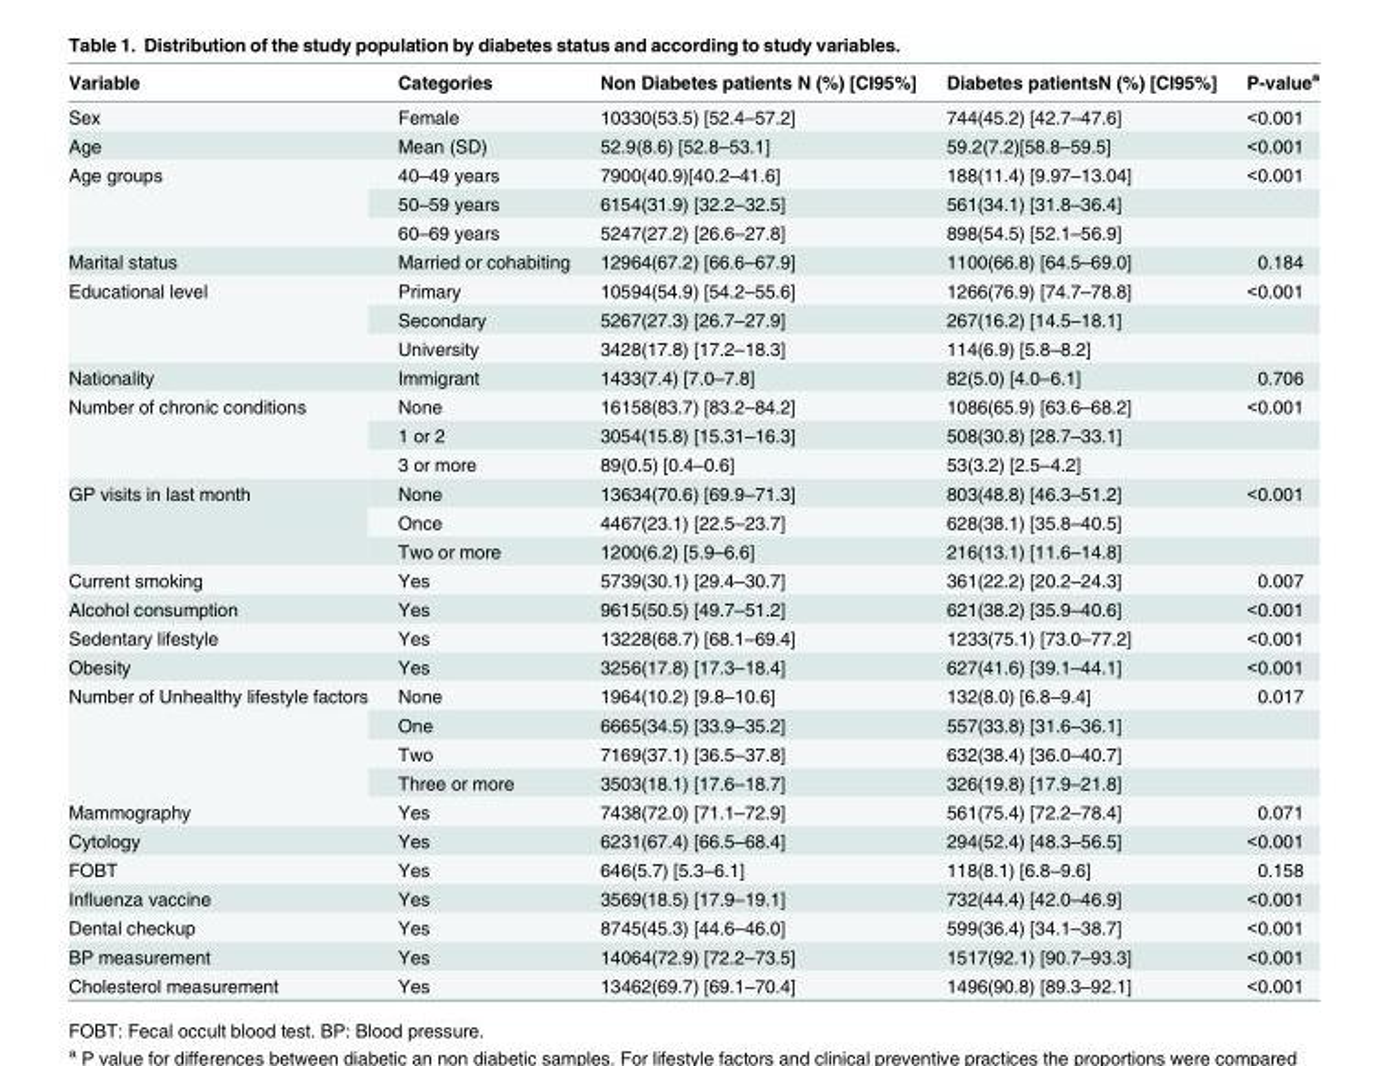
<table><thead><tr><td>Variable</td><td>Categories</td><td>Non Diabetes patients N (%) [CI95%]</td><td>Diabetes patientsN (%) [CI95%]</td><td>P-value<sup>a</sup></td></tr></thead><tbody><tr><td>Sex</td><td>Female</td><td>10330(53.5) [52.4–57.2]</td><td>744(45.2) [42.7–47.6]</td><td>&lt;0.001</td></tr><tr><td>Age</td><td>Mean (SD)</td><td>52.9(8.6) [52.8–53.1]</td><td>59.2(7.2)[58.8–59.5]</td><td>&lt;0.001</td></tr><tr><td rowspan="3">Age groups</td><td>40–49 years</td><td>7900(40.9)[40.2–41.6]</td><td>188(11.4) [9.97–13.04]</td><td>&lt;0.001</td></tr><tr><td>50–59 years</td><td>6154(31.9) [32.2–32.5]</td><td>561(34.1) [31.8–36.4]</td><td></td></tr><tr><td>60–69 years</td><td>5247(27.2) [26.6–27.8]</td><td>898(54.5) [52.1–56.9]</td><td></td></tr><tr><td>Marital status</td><td>Married or cohabiting</td><td>12964(67.2) [66.6–67.9]</td><td>1100(66.8) [64.5–69.0]</td><td>0.184</td></tr><tr><td rowspan="3">Educational level</td><td>Primary</td><td>10594(54.9) [54.2–55.6]</td><td>1266(76.9) [74.7–78.8]</td><td>&lt;0.001</td></tr><tr><td>Secondary</td><td>5267(27.3) [26.7–27.9]</td><td>267(16.2) [14.5–18.1]</td><td></td></tr><tr><td>University</td><td>3428(17.8) [17.2–18.3]</td><td>114(6.9) [5.8–8.2]</td><td></td></tr><tr><td>Nationality</td><td>Immigrant</td><td>1433(7.4) [7.0–7.8]</td><td>82(5.0) [4.0–6.1]</td><td>0.706</td></tr><tr><td rowspan="3">Number of chronic conditions</td><td>None</td><td>16158(83.7) [83.2–84.2]</td><td>1086(65.9) [63.6–68.2]</td><td>&lt;0.001</td></tr><tr><td>1 or 2</td><td>3054(15.8) [15.31–16.3]</td><td>508(30.8) [28.7–33.1]</td><td></td></tr><tr><td>3 or more</td><td>89(0.5) [0.4–0.6]</td><td>53(3.2) [2.5–4.2]</td><td></td></tr><tr><td rowspan="3">GP visits in last month</td><td>None</td><td>13634(70.6) [69.9–71.3]</td><td>803(48.8) [46.3–51.2]</td><td>&lt;0.001</td></tr><tr><td>Once</td><td>4467(23.1) [22.5–23.7]</td><td>628(38.1) [35.8–40.5]</td><td></td></tr><tr><td>Two or more</td><td>1200(6.2) [5.9–6.6]</td><td>216(13.1) [11.6–14.8]</td><td></td></tr><tr><td>Current smoking</td><td>Yes</td><td>5739(30.1) [29.4–30.7]</td><td>361(22.2) [20.2–24.3]</td><td>0.007</td></tr><tr><td>Alcohol consumption</td><td>Yes</td><td>9615(50.5) [49.7–51.2]</td><td>621(38.2) [35.9–40.6]</td><td>&lt;0.001</td></tr><tr><td>Sedentary lifestyle</td><td>Yes</td><td>13228(68.7) [68.1–69.4]</td><td>1233(75.1) [73.0–77.2]</td><td>&lt;0.001</td></tr><tr><td>Obesity</td><td>Yes</td><td>3256(17.8) [17.3–18.4]</td><td>627(41.6) [39.1–44.1]</td><td>&lt;0.001</td></tr><tr><td rowspan="4">Number of Unhealthy lifestyle factors</td><td>None</td><td>1964(10.2) [9.8–10.6]</td><td>132(8.0) [6.8–9.4]</td><td>0.017</td></tr><tr><td>One</td><td>6665(34.5) [33.9–35.2]</td><td>557(33.8) [31.6–36.1]</td><td></td></tr><tr><td>Two</td><td>7169(37.1) [36.5–37.8]</td><td>632(38.4) [36.0–40.7]</td><td></td></tr><tr><td>Three or more</td><td>3503(18.1) [17.6–18.7]</td><td>326(19.8) [17.9–21.8]</td><td></td></tr><tr><td>Mammography</td><td>Yes</td><td>7438(72.0) [71.1–72.9]</td><td>561(75.4) [72.2–78.4]</td><td>0.071</td></tr><tr><td>Cytology</td><td>Yes</td><td>6231(67.4) [66.5–68.4]</td><td>294(52.4) [48.3–56.5]</td><td>&lt;0.001</td></tr><tr><td>FOBT</td><td>Yes</td><td>646(5.7) [5.3–6.1]</td><td>118(8.1) [6.8–9.6]</td><td>0.158</td></tr><tr><td>Influenza vaccine</td><td>Yes</td><td>3569(18.5) [17.9–19.1]</td><td>732(44.4) [42.0–46.9]</td><td>&lt;0.001</td></tr><tr><td>Dental checkup</td><td>Yes</td><td>8745(45.3) [44.6–46.0]</td><td>599(36.4) [34.1–38.7]</td><td>&lt;0.001</td></tr><tr><td>BP measurement</td><td>Yes</td><td>14064(72.9) [72.2–73.5]</td><td>1517(92.1) [90.7–93.3]</td><td>&lt;0.001</td></tr><tr><td>Cholesterol measurement</td><td>Yes</td><td>13462(69.7) [69.1–70.4]</td><td>1496(90.8) [89.3–92.1]</td><td>&lt;0.001</td></tr></tbody></table>